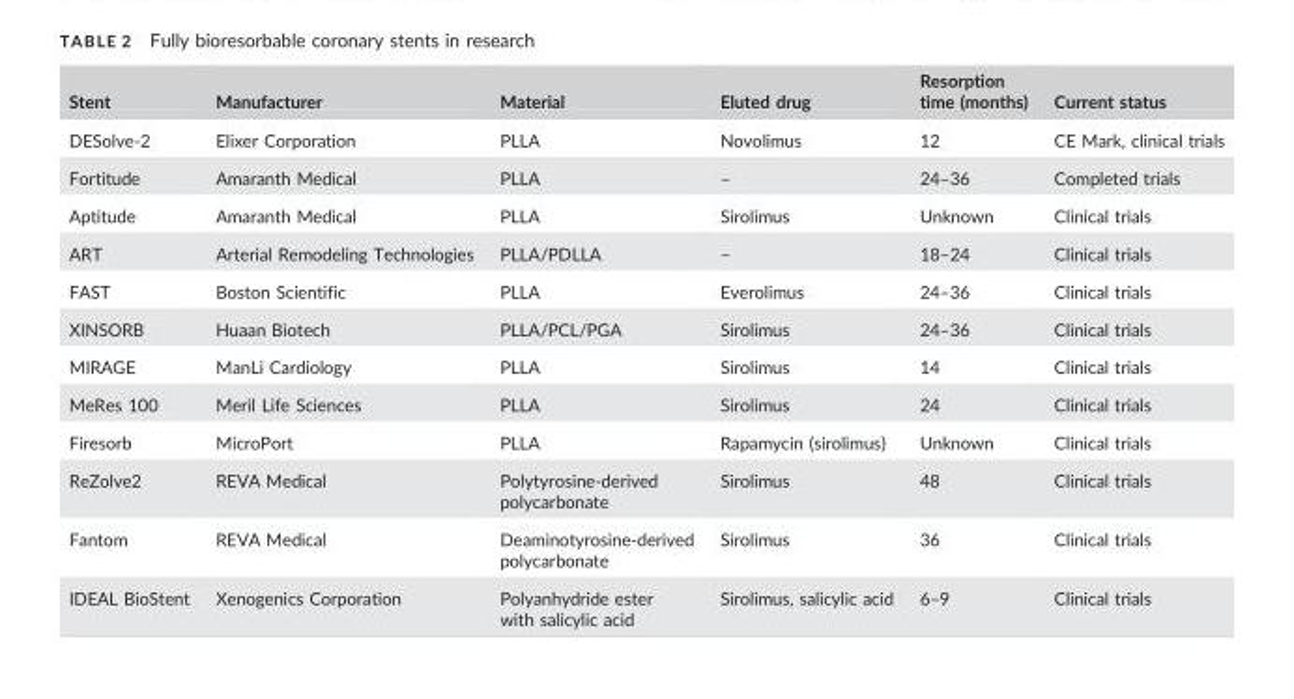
<table><thead><tr><td>Stent</td><td>Manufacturer</td><td>Material</td><td>Eluted drug</td><td>Resorption time (months)</td><td>Current status</td></tr></thead><tbody><tr><td>DESolve-2</td><td>Elixer Corporation</td><td>PLLA</td><td>Novolimus</td><td>12</td><td>CE Mark, clinical trials</td></tr><tr><td>Fortitude</td><td>Amaranth Medical</td><td>PLLA</td><td>–</td><td>24–36</td><td>Completed trials</td></tr><tr><td>Aptitude</td><td>Amaranth Medical</td><td>PLLA</td><td>Sirolimus</td><td>Unknown</td><td>Clinical trials</td></tr><tr><td>ART</td><td>Arterial Remodeling Technologies</td><td>PLLA/PDLLA</td><td>–</td><td>18–24</td><td>Clinical trials</td></tr><tr><td>FAST</td><td>Boston Scientific</td><td>PLLA</td><td>Everolimus</td><td>24–36</td><td>Clinical trials</td></tr><tr><td>XINSORB</td><td>Huaan Biotech</td><td>PLLA/PCL/PGA</td><td>Sirolimus</td><td>24–36</td><td>Clinical trials</td></tr><tr><td>MIRAGE</td><td>ManLi Cardiology</td><td>PLLA</td><td>Sirolimus</td><td>14</td><td>Clinical trials</td></tr><tr><td>MeRes 100</td><td>Meril Life Sciences</td><td>PLLA</td><td>Sirolimus</td><td>24</td><td>Clinical trials</td></tr><tr><td>Firesorb</td><td>MicroPort</td><td>PLLA</td><td>Rapamycin (sirolimus)</td><td>Unknown</td><td>Clinical trials</td></tr><tr><td>ReZolve2</td><td>REVA Medical</td><td>Polytyrosine-derived polycarbonate</td><td>Sirolimus</td><td>48</td><td>Clinical trials</td></tr><tr><td>Fantom</td><td>REVA Medical</td><td>Deaminotyrosine-derived polycarbonate</td><td>Sirolimus</td><td>36</td><td>Clinical trials</td></tr><tr><td>IDEAL BioStent</td><td>Xenogenics Corporation</td><td>Polyanhydride ester with salicylic acid</td><td>Sirolimus, salicylic acid</td><td>6–9</td><td>Clinical trials</td></tr></tbody></table>